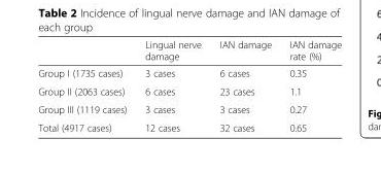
<table><thead><tr><td></td><td>Lingual nerve damage</td><td>IAN damage</td><td>IAN damage rate (%)</td></tr></thead><tbody><tr><td>Group I (1735 cases)</td><td>3 cases</td><td>6 cases</td><td>0.35</td></tr><tr><td>Group II (2063 cases)</td><td>6 cases</td><td>23 cases</td><td>1.1</td></tr><tr><td>Group III (1119 cases)</td><td>3 cases</td><td>3 cases</td><td>0.27</td></tr><tr><td>Total (4917 cases)</td><td>12 cases</td><td>32 cases</td><td>0.65</td></tr></tbody></table>